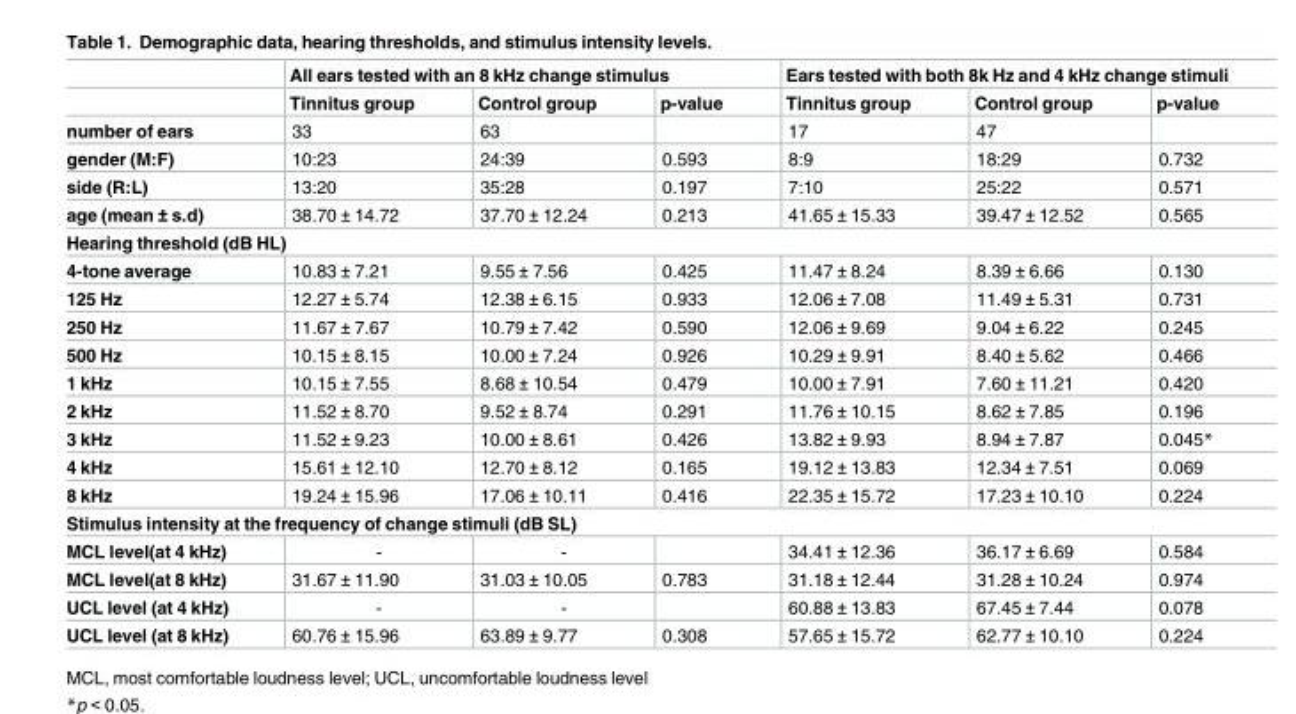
<table><thead><tr><td rowspan="2"></td><td colspan="3">All ears tested with an 8 kHz change stimulus</td><td colspan="3">Ears tested with both 8k Hz and 4 kHz change stimuli</td></tr><tr><td>Tinnitus group</td><td>Control group</td><td>p-value</td><td>Tinnitus group</td><td>Control group</td><td>p-value</td></tr></thead><tbody><tr><td>number of ears</td><td>33</td><td>63</td><td></td><td>17</td><td>47</td><td></td></tr><tr><td>gender (M:F)</td><td>10:23</td><td>24:39</td><td>0.593</td><td>8:9</td><td>18:29</td><td>0.732</td></tr><tr><td>side (R:L)</td><td>13:20</td><td>35:28</td><td>0.197</td><td>7:10</td><td>25:22</td><td>0.571</td></tr><tr><td>age (mean ± s.d)</td><td>38.70 ± 14.72</td><td>37.70 ± 12.24</td><td>0.213</td><td>41.65 ± 15.33</td><td>39.47 ± 12.52</td><td>0.565</td></tr><tr><td colspan="7">Hearing threshold (dB HL)</td></tr><tr><td>4-tone average</td><td>10.83 ± 7.21</td><td>9.55 ± 7.56</td><td>0.425</td><td>11.47 ± 8.24</td><td>8.39 ± 6.66</td><td>0.130</td></tr><tr><td>125 Hz</td><td>12.27 ± 5.74</td><td>12.38 ± 6.15</td><td>0.933</td><td>12.06 ± 7.08</td><td>11.49 ± 5.31</td><td>0.731</td></tr><tr><td>250 Hz</td><td>11.67 ± 7.67</td><td>10.79 ± 7.42</td><td>0.590</td><td>12.06 ± 9.69</td><td>9.04 ± 6.22</td><td>0.245</td></tr><tr><td>500 Hz</td><td>10.15 ± 8.15</td><td>10.00 ± 7.24</td><td>0.926</td><td>10.29 ± 9.91</td><td>8.40 ± 5.62</td><td>0.466</td></tr><tr><td>1 kHz</td><td>10.15 ± 7.55</td><td>8.68 ± 10.54</td><td>0.479</td><td>10.00 ± 7.91</td><td>7.60 ± 11.21</td><td>0.420</td></tr><tr><td>2 kHz</td><td>11.52 ± 8.70</td><td>9.52 ± 8.74</td><td>0.291</td><td>11.76 ± 10.15</td><td>8.62 ± 7.85</td><td>0.196</td></tr><tr><td>3 kHz</td><td>11.52 ± 9.23</td><td>10.00 ± 8.61</td><td>0.426</td><td>13.82 ± 9.93</td><td>8.94 ± 7.87</td><td>0.045*</td></tr><tr><td>4 kHz</td><td>15.61 ± 12.10</td><td>12.70 ± 8.12</td><td>0.165</td><td>19.12 ± 13.83</td><td>12.34 ± 7.51</td><td>0.069</td></tr><tr><td>8 kHz</td><td>19.24 ± 15.96</td><td>17.06 ± 10.11</td><td>0.416</td><td>22.35 ± 15.72</td><td>17.23 ± 10.10</td><td>0.224</td></tr><tr><td colspan="7">Stimulus intensity at the frequency of change stimuli (dB SL)</td></tr><tr><td>MCL level(at 4 kHz)</td><td>-</td><td>-</td><td></td><td>34.41 ± 12.36</td><td>36.17 ± 6.69</td><td>0.584</td></tr><tr><td>MCL level(at 8 kHz)</td><td>31.67 ± 11.90</td><td>31.03 ± 10.05</td><td>0.783</td><td>31.18 ± 12.44</td><td>31.28 ± 10.24</td><td>0.974</td></tr><tr><td>UCL level (at 4 kHz)</td><td>-</td><td>-</td><td></td><td>60.88 ± 13.83</td><td>67.45 ± 7.44</td><td>0.078</td></tr><tr><td>UCL level (at 8 kHz)</td><td>60.76 ± 15.96</td><td>63.89 ± 9.77</td><td>0.308</td><td>57.65 ± 15.72</td><td>62.77 ± 10.10</td><td>0.224</td></tr></tbody></table>